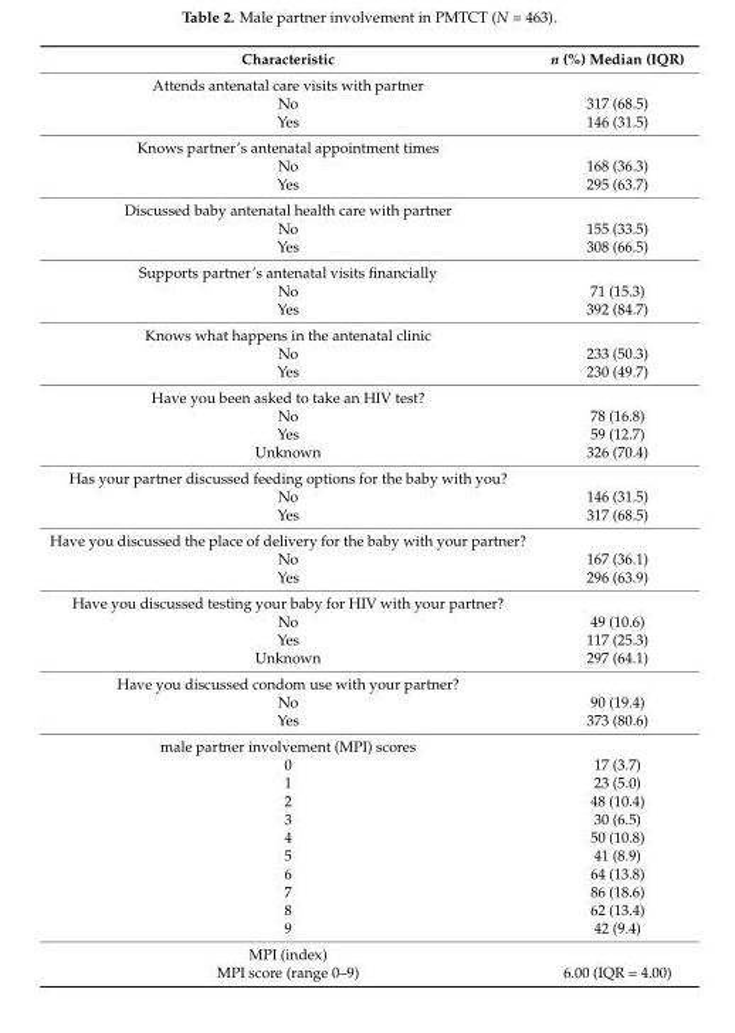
<table><thead><tr><td>Characteristic</td><td>n (%) Median (IQR)</td></tr></thead><tbody><tr><td colspan="2">Attends antenatal care visits with partner</td></tr><tr><td>No</td><td>317 (68.5)</td></tr><tr><td>Yes</td><td>146 (31.5)</td></tr><tr><td colspan="2">Knows partner’s antenatal appointment times</td></tr><tr><td>No</td><td>168 (36.3)</td></tr><tr><td>Yes</td><td>295 (63.7)</td></tr><tr><td colspan="2">Discussed baby antenatal health care with partner</td></tr><tr><td>No</td><td>155 (33.5)</td></tr><tr><td>Yes</td><td>308 (66.5)</td></tr><tr><td colspan="2">Supports partner’s antenatal visits financially</td></tr><tr><td>No</td><td>71 (15.3)</td></tr><tr><td>Yes</td><td>392 (84.7)</td></tr><tr><td colspan="2">Knows what happens in the antenatal clinic</td></tr><tr><td>No</td><td>233 (50.3)</td></tr><tr><td>Yes</td><td>230 (49.7)</td></tr><tr><td colspan="2">Have you been asked to take an HIV test?</td></tr><tr><td>No</td><td>78 (16.8)</td></tr><tr><td>Yes</td><td>59 (12.7)</td></tr><tr><td>Unknown</td><td>326 (70.4)</td></tr><tr><td colspan="2">Has your partner discussed feeding options for the baby with you?</td></tr><tr><td>No</td><td>146 (31.5)</td></tr><tr><td>Yes</td><td>317 (68.5)</td></tr><tr><td colspan="2">Have you discussed the place of delivery for the baby with your partner?</td></tr><tr><td>No</td><td>167 (36.1)</td></tr><tr><td>Yes</td><td>296 (63.9)</td></tr><tr><td colspan="2">Have you discussed testing your baby for HIV with your partner?</td></tr><tr><td>No</td><td>49 (10.6)</td></tr><tr><td>Yes</td><td>117 (25.3)</td></tr><tr><td>Unknown</td><td>297 (64.1)</td></tr><tr><td colspan="2">Have you discussed condom use with your partner?</td></tr><tr><td>No</td><td>90 (19.4)</td></tr><tr><td>Yes</td><td>373 (80.6)</td></tr><tr><td colspan="2">male partner involvement (MPI) scores</td></tr><tr><td>0</td><td>17 (3.7)</td></tr><tr><td>1</td><td>23 (5.0)</td></tr><tr><td>2</td><td>48 (10.4)</td></tr><tr><td>3</td><td>30 (6.5)</td></tr><tr><td>4</td><td>50 (10.8)</td></tr><tr><td>5</td><td>41 (8.9)</td></tr><tr><td>6</td><td>64 (13.8)</td></tr><tr><td>7</td><td>86 (18.6)</td></tr><tr><td>8</td><td>62 (13.4)</td></tr><tr><td>9</td><td>42 (9.4)</td></tr><tr><td colspan="2">MPI (index)</td></tr><tr><td>MPI score (range 0–9)</td><td>6.00 (IQR = 4.00)</td></tr></tbody></table>